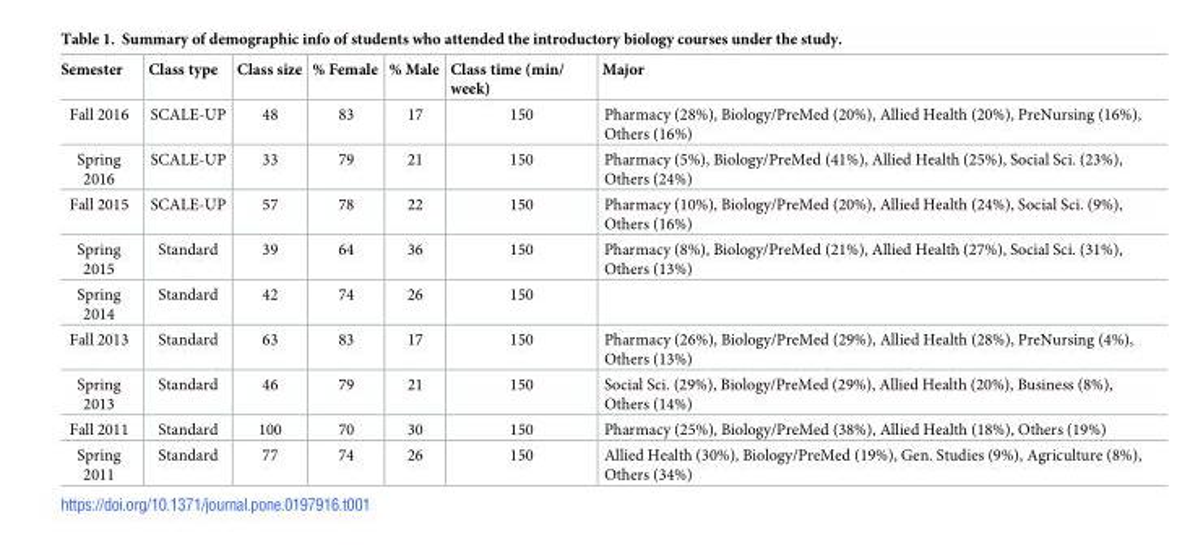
<table><thead><tr><td>Semester</td><td>Class type</td><td>Class size</td><td>% Female</td><td>% Male</td><td>Class time (min/ week)</td><td>Major</td></tr></thead><tbody><tr><td>Fall 2016</td><td>SCALE-UP</td><td>48</td><td>83</td><td>17</td><td>150</td><td>Pharmacy (28%), Biology/PreMed (20%), Allied Health (20%), PreNursing (16%), Others (16%)</td></tr><tr><td>Spring 2016</td><td>SCALE-UP</td><td>33</td><td>79</td><td>21</td><td>150</td><td>Pharmacy (5%), Biology/PreMed (41%), Allied Health (25%), Social Sci. (23%), Others (24%)</td></tr><tr><td>Fall 2015</td><td>SCALE-UP</td><td>57</td><td>78</td><td>22</td><td>150</td><td>Pharmacy (10%), Biology/PreMed (20%), Allied Health (24%), Social Sci. (9%), Others (16%)</td></tr><tr><td>Spring 2015</td><td>Standard</td><td>39</td><td>64</td><td>36</td><td>150</td><td>Pharmacy (8%), Biology/PreMed (21%), Allied Health (27%), Social Sci. (31%), Others (13%)</td></tr><tr><td>Spring 2014</td><td>Standard</td><td>42</td><td>74</td><td>26</td><td>150</td><td></td></tr><tr><td>Fall 2013</td><td>Standard</td><td>63</td><td>83</td><td>17</td><td>150</td><td>Pharmacy (26%), Biology/PreMed (29%), Allied Health (28%), PreNursing (4%), Others (13%)</td></tr><tr><td>Spring 2013</td><td>Standard</td><td>46</td><td>79</td><td>21</td><td>150</td><td>Social Sci. (29%), Biology/PreMed (29%), Allied Health (20%), Business (8%), Others (14%)</td></tr><tr><td>Fall 2011</td><td>Standard</td><td>100</td><td>70</td><td>30</td><td>150</td><td>Pharmacy (25%), Biology/PreMed (38%), Allied Health (18%), Others (19%)</td></tr><tr><td>Spring 2011</td><td>Standard</td><td>77</td><td>74</td><td>26</td><td>150</td><td>Allied Health (30%), Biology/PreMed (19%), Gen. Studies (9%), Agriculture (8%), Others (34%)</td></tr></tbody></table>